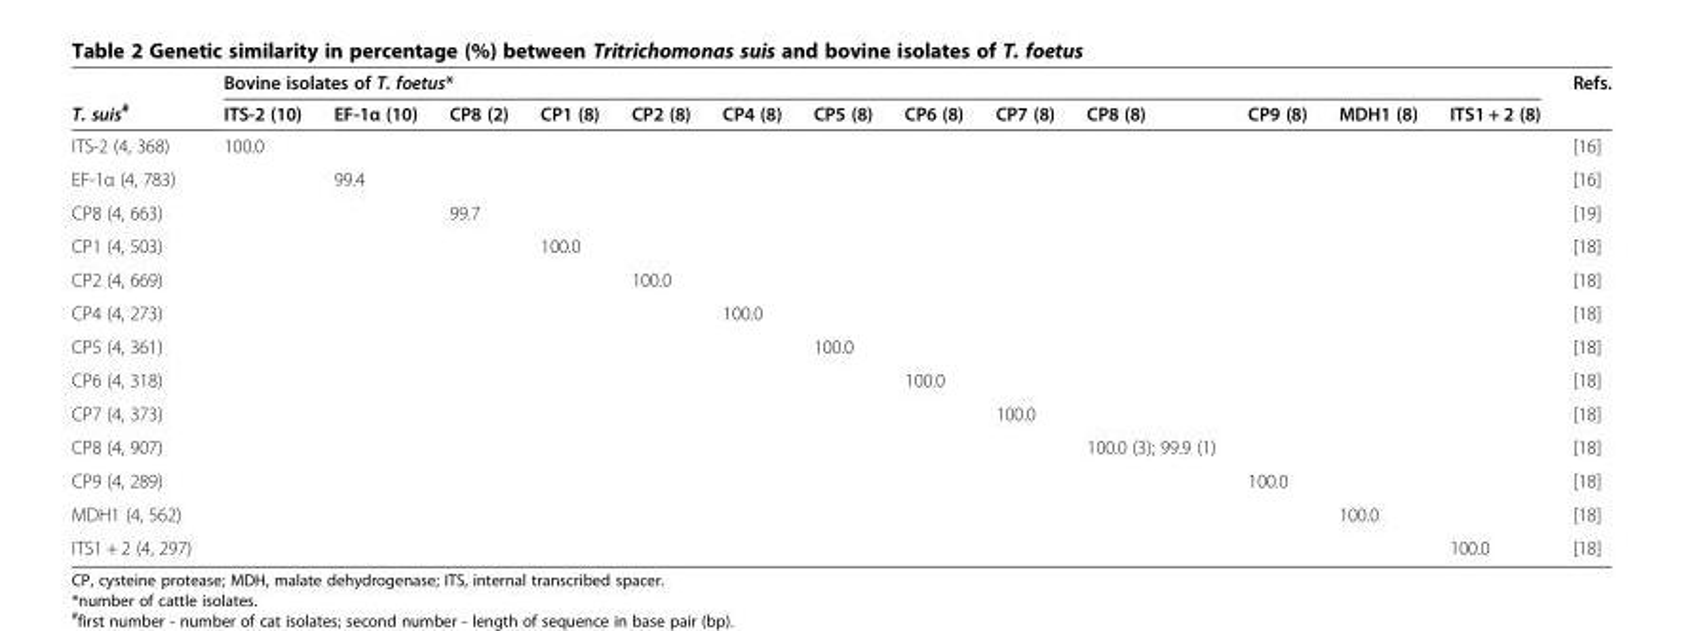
<table><thead><tr><td rowspan="2">T. suis<sup>#</sup></td><td colspan="13">Bovine isolates of T. foetus*</td><td rowspan="2">Refs.</td></tr><tr><td>ITS-2 (10)</td><td>EF-1α (10)</td><td>CP8 (2)</td><td>CP1 (8)</td><td>CP2 (8)</td><td>CP4 (8)</td><td>CP5 (8)</td><td>CP6 (8)</td><td>CP7 (8)</td><td>CP8 (8)</td><td>CP9 (8)</td><td>MDH1 (8)</td><td>ITS1 + 2 (8)</td></tr></thead><tbody><tr><td>ITS-2 (4, 368)</td><td>100.0</td><td></td><td></td><td></td><td></td><td></td><td></td><td></td><td></td><td></td><td></td><td></td><td></td><td>[16]</td></tr><tr><td>EF-1α (4, 783)</td><td></td><td>99.4</td><td></td><td></td><td></td><td></td><td></td><td></td><td></td><td></td><td></td><td></td><td></td><td>[16]</td></tr><tr><td>CP8 (4, 663)</td><td></td><td></td><td>99.7</td><td></td><td></td><td></td><td></td><td></td><td></td><td></td><td></td><td></td><td></td><td>[19]</td></tr><tr><td>CP1 (4, 503)</td><td></td><td></td><td></td><td>100.0</td><td></td><td></td><td></td><td></td><td></td><td></td><td></td><td></td><td></td><td>[18]</td></tr><tr><td>CP2 (4, 669)</td><td></td><td></td><td></td><td></td><td>100.0</td><td></td><td></td><td></td><td></td><td></td><td></td><td></td><td></td><td>[18]</td></tr><tr><td>CP4 (4, 273)</td><td></td><td></td><td></td><td></td><td></td><td>100.0</td><td></td><td></td><td></td><td></td><td></td><td></td><td></td><td>[18]</td></tr><tr><td>CP5 (4, 361)</td><td></td><td></td><td></td><td></td><td></td><td></td><td>100.0</td><td></td><td></td><td></td><td></td><td></td><td></td><td>[18]</td></tr><tr><td>CP6 (4, 318)</td><td></td><td></td><td></td><td></td><td></td><td></td><td></td><td>100.0</td><td></td><td></td><td></td><td></td><td></td><td>[18]</td></tr><tr><td>CP7 (4, 373)</td><td></td><td></td><td></td><td></td><td></td><td></td><td></td><td></td><td>100.0</td><td></td><td></td><td></td><td></td><td>[18]</td></tr><tr><td>CP8 (4, 907)</td><td></td><td></td><td></td><td></td><td></td><td></td><td></td><td></td><td></td><td>100.0 (3); 99.9 (1)</td><td></td><td></td><td></td><td>[18]</td></tr><tr><td>CP9 (4, 289)</td><td></td><td></td><td></td><td></td><td></td><td></td><td></td><td></td><td></td><td></td><td>100.0</td><td></td><td></td><td>[18]</td></tr><tr><td>MDH1 (4, 562)</td><td></td><td></td><td></td><td></td><td></td><td></td><td></td><td></td><td></td><td></td><td></td><td>100.0</td><td></td><td>[18]</td></tr><tr><td>ITS1 + 2 (4, 297)</td><td></td><td></td><td></td><td></td><td></td><td></td><td></td><td></td><td></td><td></td><td></td><td></td><td>100.0</td><td>[18]</td></tr></tbody></table>